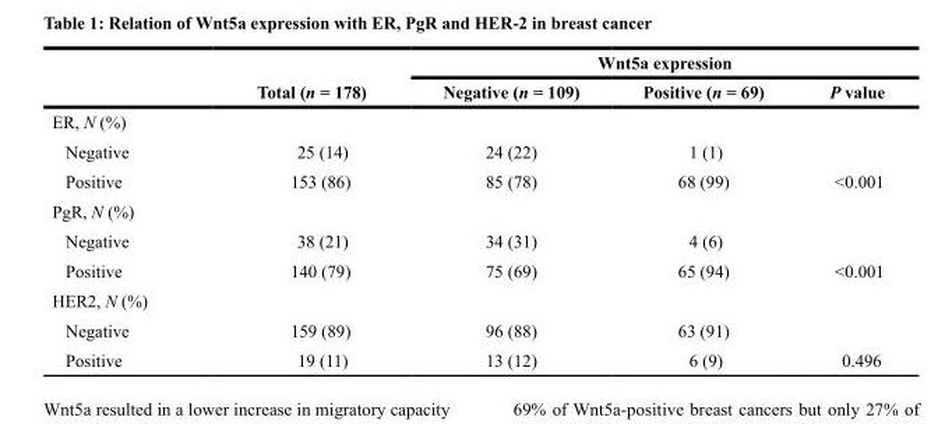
<table><thead><tr><td rowspan="2"></td><td rowspan="2">Total (n = 178)</td><td colspan="3">Wnt5a expression</td></tr><tr><td>Negative (n = 109)</td><td>Positive (n = 69)</td><td>P value</td></tr></thead><tbody><tr><td colspan="5">ER, N (%)</td></tr><tr><td>Negative</td><td>25 (14)</td><td>24 (22)</td><td>1 (1)</td><td></td></tr><tr><td>Positive</td><td>153 (86)</td><td>85 (78)</td><td>68 (99)</td><td>&lt;0.001</td></tr><tr><td colspan="5">PgR, N (%)</td></tr><tr><td>Negative</td><td>38 (21)</td><td>34 (31)</td><td>4 (6)</td><td></td></tr><tr><td>Positive</td><td>140 (79)</td><td>75 (69)</td><td>65 (94)</td><td>&lt;0.001</td></tr><tr><td colspan="5">HER2, N (%)</td></tr><tr><td>Negative</td><td>159 (89)</td><td>96 (88)</td><td>63 (91)</td><td></td></tr><tr><td>Positive</td><td>19 (11)</td><td>13 (12)</td><td>6 (9)</td><td>0.496</td></tr></tbody></table>